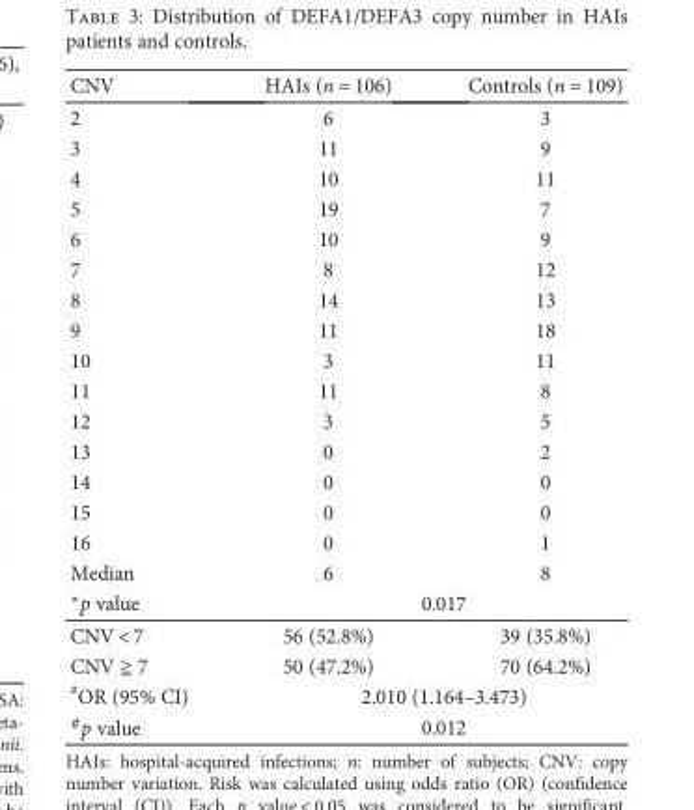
<table><thead><tr><td>CNV</td><td>HAIs (n = 106)</td><td>Controls (n = 109)</td></tr></thead><tbody><tr><td>2</td><td>6</td><td>3</td></tr><tr><td>3</td><td>11</td><td>9</td></tr><tr><td>4</td><td>10</td><td>11</td></tr><tr><td>5</td><td>19</td><td>7</td></tr><tr><td>6</td><td>10</td><td>9</td></tr><tr><td>7</td><td>8</td><td>12</td></tr><tr><td>8</td><td>14</td><td>13</td></tr><tr><td>9</td><td>11</td><td>18</td></tr><tr><td>10</td><td>3</td><td>11</td></tr><tr><td>11</td><td>11</td><td>8</td></tr><tr><td>12</td><td>3</td><td>5</td></tr><tr><td>13</td><td>0</td><td>2</td></tr><tr><td>14</td><td>0</td><td>0</td></tr><tr><td>15</td><td>0</td><td>0</td></tr><tr><td>16</td><td>0</td><td>1</td></tr><tr><td>Median</td><td>6</td><td>8</td></tr><tr><td>∗p value</td><td colspan="2">0.017</td></tr><tr><td>CNV &lt; 7</td><td>56 (52.8%)</td><td>39 (35.8%)</td></tr><tr><td>CNV ≧ 7</td><td>50 (47.2%)</td><td>70 (64.2%)</td></tr><tr><td><sup>#</sup>OR (95% CI)</td><td colspan="2">2.010 (1.164–3.473)</td></tr><tr><td><sup>#</sup>p value</td><td colspan="2">0.012</td></tr></tbody></table>